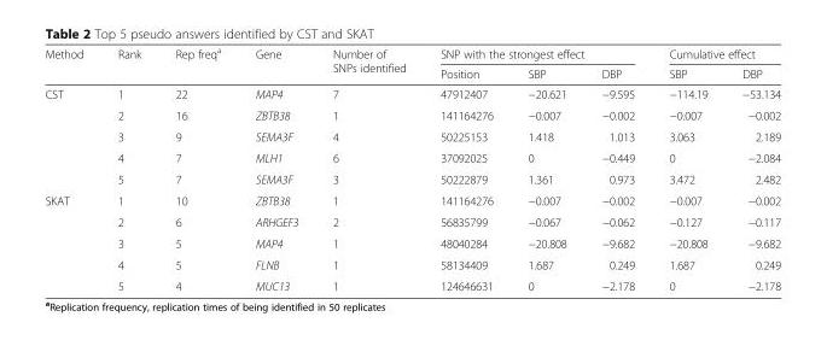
<table><thead><tr><td rowspan="2">Method</td><td rowspan="2">Rank</td><td rowspan="2">Rep freq<sup>a</sup></td><td rowspan="2">Gene</td><td rowspan="2">Number of SNPs identified</td><td colspan="3">SNP with the strongest effect</td><td colspan="2">Cumulative effect</td></tr><tr><td>Position</td><td>SBP</td><td>DBP</td><td>SBP</td><td>DBP</td></tr></thead><tbody><tr><td rowspan="5">CST</td><td>1</td><td>22</td><td>MAP4</td><td>7</td><td>47912407</td><td>−20.621</td><td>−9.595</td><td>−114.19</td><td>−53.134</td></tr><tr><td>2</td><td>16</td><td>ZBTB38</td><td>1</td><td>141164276</td><td>−0.007</td><td>−0.002</td><td>−0.007</td><td>−0.002</td></tr><tr><td>3</td><td>9</td><td>SEMA3F</td><td>4</td><td>50225153</td><td>1.418</td><td>1.013</td><td>3.063</td><td>2.189</td></tr><tr><td>4</td><td>7</td><td>MLH1</td><td>6</td><td>37092025</td><td>0</td><td>−0.449</td><td>0</td><td>−2.084</td></tr><tr><td>5</td><td>7</td><td>SEMA3F</td><td>3</td><td>50222879</td><td>1.361</td><td>0.973</td><td>3.472</td><td>2.482</td></tr><tr><td rowspan="5">SKAT</td><td>1</td><td>10</td><td>ZBTB38</td><td>1</td><td>141164276</td><td>−0.007</td><td>−0.002</td><td>−0.007</td><td>−0.002</td></tr><tr><td>2</td><td>6</td><td>ARHGEF3</td><td>2</td><td>56835799</td><td>−0.067</td><td>−0.062</td><td>−0.127</td><td>−0.117</td></tr><tr><td>3</td><td>5</td><td>MAP4</td><td>1</td><td>48040284</td><td>−20.808</td><td>−9.682</td><td>−20.808</td><td>−9.682</td></tr><tr><td>4</td><td>5</td><td>FLNB</td><td>1</td><td>58134409</td><td>1.687</td><td>0.249</td><td>1.687</td><td>0.249</td></tr><tr><td>5</td><td>4</td><td>MUC13</td><td>1</td><td>124646631</td><td>0</td><td>−2.178</td><td>0</td><td>−2.178</td></tr></tbody></table>